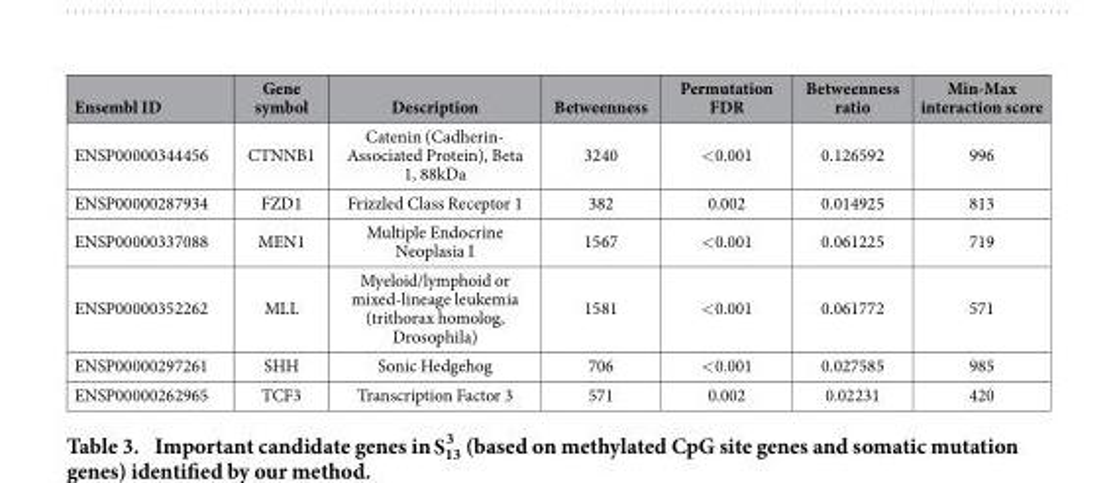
<table><thead><tr><td>Ensembl ID</td><td>Gene symbol</td><td>Description</td><td>Betweenness</td><td>Permutation FDR</td><td>Betweenness ratio</td><td>Min-Max interaction score</td></tr></thead><tbody><tr><td>ENSP00000344456</td><td>CTNNB1</td><td>Catenin (Cadherin- Associated Protein), Beta 1, 88kDa</td><td>3240</td><td>&lt; 0.001</td><td>0.126592</td><td>996</td></tr><tr><td>ENSP00000287934</td><td>FZD1</td><td>Frizzled Class Receptor 1</td><td>382</td><td>0.002</td><td>0.014925</td><td>813</td></tr><tr><td>ENSP00000337088</td><td>MEN1</td><td>Multiple Endocrine Neoplasia I</td><td>1567</td><td>&lt; 0.001</td><td>0.061225</td><td>719</td></tr><tr><td>ENSP00000352262</td><td>MLL</td><td>Myeloid/lymphoid or mixed-lineage leukemia (trithorax homolog, Drosophila)</td><td>1581</td><td>&lt; 0.001</td><td>0.061772</td><td>571</td></tr><tr><td>ENSP00000297261</td><td>SHH</td><td>Sonic Hedgehog</td><td>706</td><td>&lt; 0.001</td><td>0.027585</td><td>985</td></tr><tr><td>ENSP00000262965</td><td>TCF3</td><td>Transcription Factor 3</td><td>571</td><td>0.002</td><td>0.02231</td><td>420</td></tr></tbody></table>